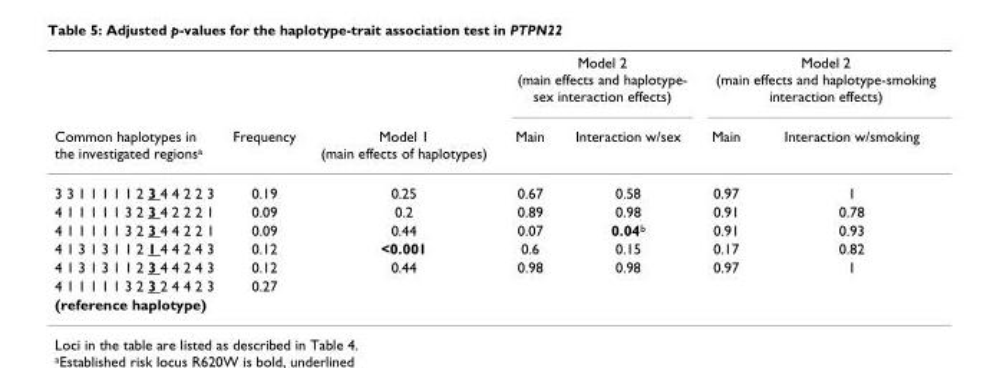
<table><thead><tr><td rowspan="2">Common haplotypes in the investigated regions<sup>a</sup></td><td rowspan="2">Frequency</td><td rowspan="2">Model 1 (main effects of haplotypes)</td><td colspan="2">Model 2 (main effects and haplotype- sex interaction effects)</td><td colspan="2">Model 2 (main effects and haplotype-smoking interaction effects)</td></tr><tr><td>Main</td><td>Interaction w/sex</td><td>Main</td><td>Interaction w/smoking</td></tr></thead><tbody><tr><td>3 3 1 1 1 1 1 2 3 4 4 2 2 3</td><td>0.19</td><td>0.25</td><td>0.67</td><td>0.58</td><td>0.97</td><td>1</td></tr><tr><td>4 1 1 1 1 1 3 2 3 4 2 2 2 1</td><td>0.09</td><td>0.2</td><td>0.89</td><td>0.98</td><td>0.91</td><td>0.78</td></tr><tr><td>4 1 1 1 1 1 3 2 3 4 4 2 2 1</td><td>0.09</td><td>0.44</td><td>0.07</td><td>0.04<sup>b</sup></td><td>0.91</td><td>0.93</td></tr><tr><td>4 1 3 1 3 1 1 2 1 4 4 2 4 3</td><td>0.12</td><td>&lt;0.001</td><td>0.6</td><td>0.15</td><td>0.17</td><td>0.82</td></tr><tr><td>4 1 3 1 3 1 1 2 3 4 4 2 4 3</td><td>0.12</td><td>0.44</td><td>0.98</td><td>0.98</td><td>0.97</td><td>1</td></tr><tr><td>4 1 1 1 1 1 3 2 3 2 4 4 2 3</td><td>0.27</td><td></td><td></td><td></td><td></td><td></td></tr><tr><td>(reference haplotype)</td><td></td><td></td><td></td><td></td><td></td><td></td></tr></tbody></table>